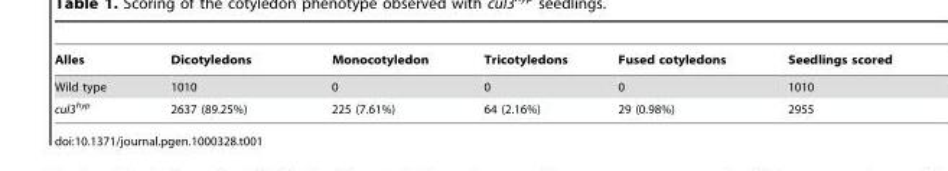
<table><thead><tr><td>Alles</td><td>Dicotyledons</td><td>Monocotyledon</td><td>Tricotyledons</td><td>Fused cotyledons</td><td>Seedlings scored</td></tr></thead><tbody><tr><td>Wild type</td><td>1010</td><td>0</td><td>0</td><td>0</td><td>1010</td></tr><tr><td>cul3<sup>hyp</sup></td><td>2637 (89.25%)</td><td>225 (7.61%)</td><td>64 (2.16%)</td><td>29 (0.98%)</td><td>2955</td></tr></tbody></table>